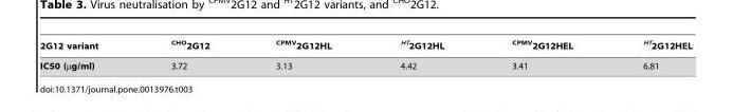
<table><thead><tr><td>2G12 variant</td><td><sup>CHO</sup>2G12</td><td><sup>CPMV</sup>2G12HL</td><td><sup>HT</sup>2G12HL</td><td><sup>CPMV</sup>2G12HEL</td><td><sup>HT</sup>2G12HEL</td></tr></thead><tbody><tr><td>IC50 (µg/ml)</td><td>3.72</td><td>3.13</td><td>4.42</td><td>3.41</td><td>6.81</td></tr></tbody></table>